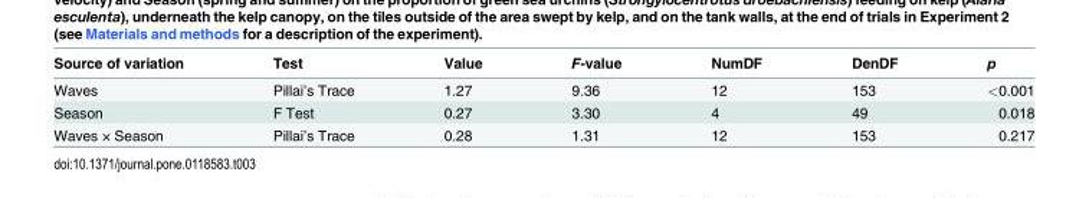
<table><thead><tr><td>Source of variation</td><td>Test</td><td>Value</td><td>F-value</td><td>NumDF</td><td>DenDF</td><td>p</td></tr></thead><tbody><tr><td>Waves</td><td>Pillai’s Trace</td><td>1.27</td><td>9.36</td><td>12</td><td>153</td><td>&lt;0.001</td></tr><tr><td>Season</td><td>F Test</td><td>0.27</td><td>3.30</td><td>4</td><td>49</td><td>0.018</td></tr><tr><td>Waves × Season</td><td>Pillai’s Trace</td><td>0.28</td><td>1.31</td><td>12</td><td>153</td><td>0.217</td></tr></tbody></table>